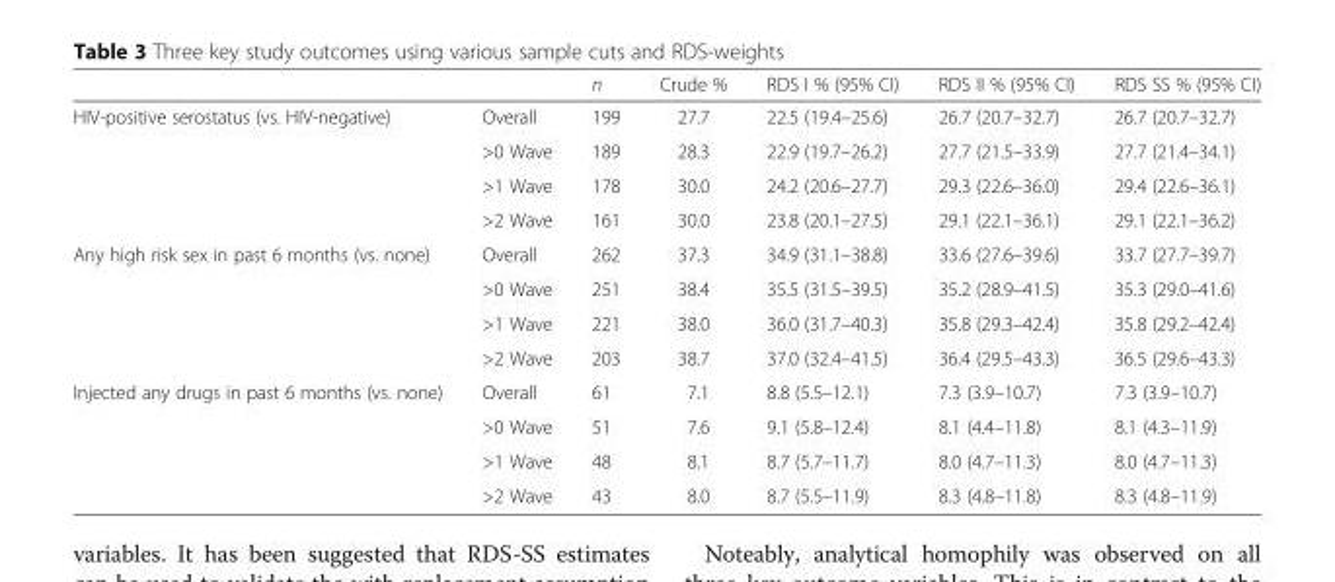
<table><thead><tr><td></td><td></td><td>n</td><td>Crude %</td><td>RDS I % (95% CI)</td><td>RDS II % (95% CI)</td><td>RDS SS % (95% CI)</td></tr></thead><tbody><tr><td rowspan="4">HIV-positive serostatus (vs. HIV-negative)</td><td>Overall</td><td>199</td><td>27.7</td><td>22.5 (19.4–25.6)</td><td>26.7 (20.7–32.7)</td><td>26.7 (20.7–32.7)</td></tr><tr><td>&gt;0 Wave</td><td>189</td><td>28.3</td><td>22.9 (19.7–26.2)</td><td>27.7 (21.5–33.9)</td><td>27.7 (21.4–34.1)</td></tr><tr><td>&gt;1 Wave</td><td>178</td><td>30.0</td><td>24.2 (20.6–27.7)</td><td>29.3 (22.6–36.0)</td><td>29.4 (22.6–36.1)</td></tr><tr><td>&gt;2 Wave</td><td>161</td><td>30.0</td><td>23.8 (20.1–27.5)</td><td>29.1 (22.1–36.1)</td><td>29.1 (22.1–36.2)</td></tr><tr><td rowspan="4">Any high risk sex in past 6 months (vs. none)</td><td>Overall</td><td>262</td><td>37.3</td><td>34.9 (31.1–38.8)</td><td>33.6 (27.6–39.6)</td><td>33.7 (27.7–39.7)</td></tr><tr><td>&gt;0 Wave</td><td>251</td><td>38.4</td><td>35.5 (31.5–39.5)</td><td>35.2 (28.9–41.5)</td><td>35.3 (29.0–41.6)</td></tr><tr><td>&gt;1 Wave</td><td>221</td><td>38.0</td><td>36.0 (31.7–40.3)</td><td>35.8 (29.3–42.4)</td><td>35.8 (29.2–42.4)</td></tr><tr><td>&gt;2 Wave</td><td>203</td><td>38.7</td><td>37.0 (32.4–41.5)</td><td>36.4 (29.5–43.3)</td><td>36.5 (29.6–43.3)</td></tr><tr><td rowspan="4">Injected any drugs in past 6 months (vs. none)</td><td>Overall</td><td>61</td><td>7.1</td><td>8.8 (5.5–12.1)</td><td>7.3 (3.9–10.7)</td><td>7.3 (3.9–10.7)</td></tr><tr><td>&gt;0 Wave</td><td>51</td><td>7.6</td><td>9.1 (5.8–12.4)</td><td>8.1 (4.4–11.8)</td><td>8.1 (4.3–11.9)</td></tr><tr><td>&gt;1 Wave</td><td>48</td><td>8.1</td><td>8.7 (5.7–11.7)</td><td>8.0 (4.7–11.3)</td><td>8.0 (4.7–11.3)</td></tr><tr><td>&gt;2 Wave</td><td>43</td><td>8.0</td><td>8.7 (5.5–11.9)</td><td>8.3 (4.8–11.8)</td><td>8.3 (4.8–11.9)</td></tr></tbody></table>